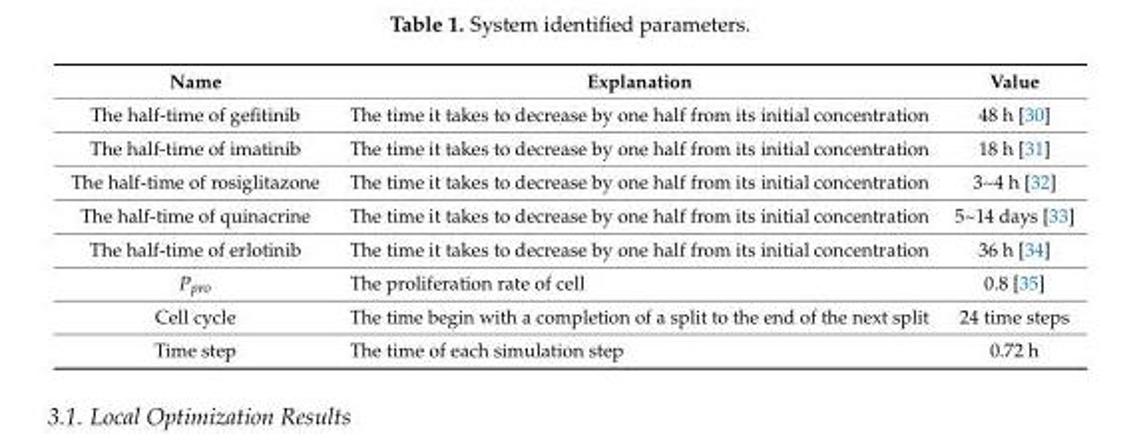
<table><thead><tr><td>Name</td><td>Explanation</td><td>Value</td></tr></thead><tbody><tr><td>The half-time of gefitinib</td><td>The time it takes to decrease by one half from its initial concentration</td><td>48 h [30]</td></tr><tr><td>The half-time of imatinib</td><td>The time it takes to decrease by one half from its initial concentration</td><td>18 h [31]</td></tr><tr><td>The half-time of rosiglitazone</td><td>The time it takes to decrease by one half from its initial concentration</td><td>3~4 h [32]</td></tr><tr><td>The half-time of quinacrine</td><td>The time it takes to decrease by one half from its initial concentration</td><td>5~14 days [33]</td></tr><tr><td>The half-time of erlotinib</td><td>The time it takes to decrease by one half from its initial concentration</td><td>36 h [34]</td></tr><tr><td>P<sub>pro</sub></td><td>The proliferation rate of cell</td><td>0.8 [35]</td></tr><tr><td>Cell cycle</td><td>The time begin with a completion of a split to the end of the next split</td><td>24 time steps</td></tr><tr><td>Time step</td><td>The time of each simulation step</td><td>0.72 h</td></tr></tbody></table>